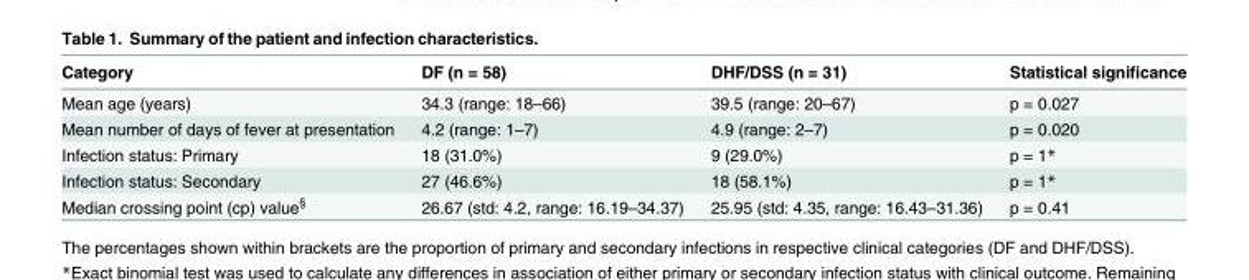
<table><thead><tr><td>Category</td><td>DF (n = 58)</td><td>DHF/DSS (n = 31)</td><td>Statistical significance</td></tr></thead><tbody><tr><td>Mean age (years)</td><td>34.3 (range: 18–66)</td><td>39.5 (range: 20–67)</td><td>p = 0.027</td></tr><tr><td>Mean number of days of fever at presentation</td><td>4.2 (range: 1–7)</td><td>4.9 (range: 2–7)</td><td>p = 0.020</td></tr><tr><td>Infection status: Primary</td><td>18 (31.0%)</td><td>9 (29.0%)</td><td>p = 1*</td></tr><tr><td>Infection status: Secondary</td><td>27 (46.6%)</td><td>18 (58.1%)</td><td>p = 1*</td></tr><tr><td>Median crossing point (cp) value<sup>§</sup></td><td>26.67 (std: 4.2, range: 16.19–34.37)</td><td>25.95 (std: 4.35, range: 16.43–31.36)</td><td>p = 0.41</td></tr></tbody></table>